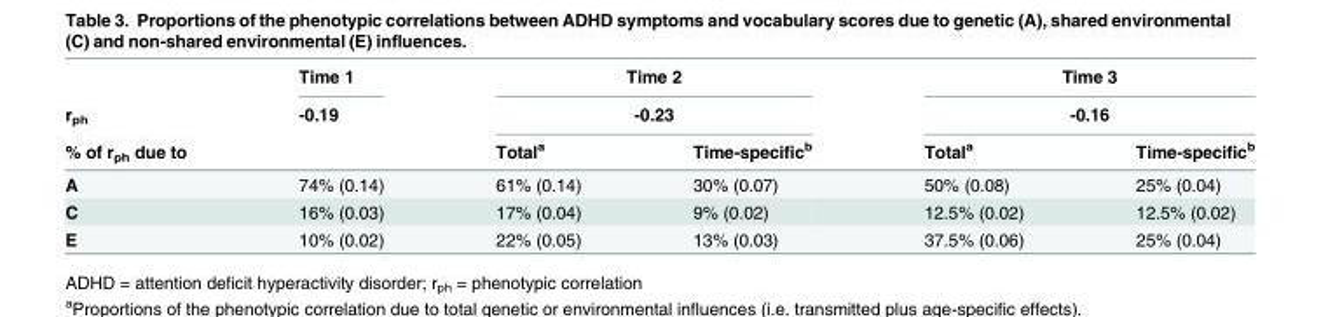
<table><thead><tr><td rowspan="3">r<sub>ph</sub> % of r<sub>ph</sub> due to</td><td rowspan="3">Time 1 -0.19</td><td rowspan="2" colspan="2">Time 2 -0.23</td><td rowspan="2" colspan="2">Time 3 -0.16</td></tr><tr></tr><tr><td>Total<sup>a</sup></td><td>Time-specific<sup>b</sup></td><td>Total<sup>a</sup></td><td>Time-specific<sup>b</sup></td></tr></thead><tbody><tr><td>A</td><td>74% (0.14)</td><td>61% (0.14)</td><td>30% (0.07)</td><td>50% (0.08)</td><td>25% (0.04)</td></tr><tr><td>C</td><td>16% (0.03)</td><td>17% (0.04)</td><td>9% (0.02)</td><td>12.5% (0.02)</td><td>12.5% (0.02)</td></tr><tr><td>E</td><td>10% (0.02)</td><td>22% (0.05)</td><td>13% (0.03)</td><td>37.5% (0.06)</td><td>25% (0.04)</td></tr></tbody></table>